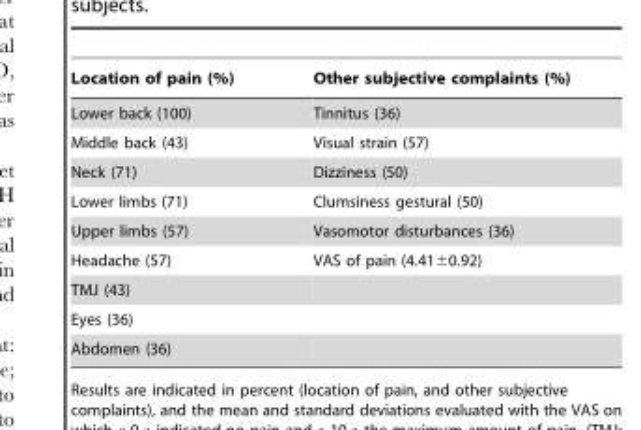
<table><thead><tr><td>Location of pain (%)</td><td>Other subjective complaints (%)</td></tr></thead><tbody><tr><td>Lower back (100)</td><td>Tinnitus (36)</td></tr><tr><td>Middle back (43)</td><td>Visual strain (57)</td></tr><tr><td>Neck (71)</td><td>Dizziness (50)</td></tr><tr><td>Lower limbs (71)</td><td>Clumsiness gestural (50)</td></tr><tr><td>Upper limbs (57)</td><td>Vasomotor disturbances (36)</td></tr><tr><td>Headache (57)</td><td>VAS of pain (4.41±0.92)</td></tr><tr><td colspan="2">TMJ (43)</td></tr><tr><td colspan="2">Eyes (36)</td></tr><tr><td>Abdomen (36)</td><td></td></tr></tbody></table>